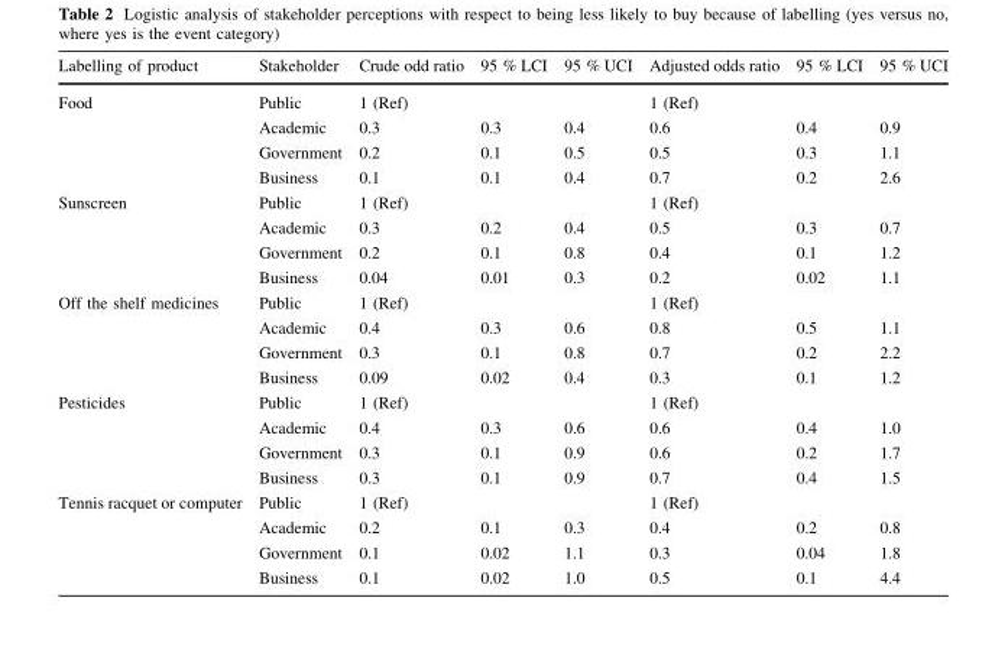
<table><thead><tr><td>Labelling of product</td><td>Stakeholder</td><td>Crude odd ratio</td><td>95 % LCI</td><td>95 % UCI</td><td>Adjusted odds ratio</td><td>95 % LCI</td><td>95 % UCI</td></tr></thead><tbody><tr><td rowspan="4">Food</td><td>Public</td><td>1 (Ref)</td><td></td><td></td><td>1 (Ref)</td><td></td><td></td></tr><tr><td>Academic</td><td>0.3</td><td>0.3</td><td>0.4</td><td>0.6</td><td>0.4</td><td>0.9</td></tr><tr><td>Government</td><td>0.2</td><td>0.1</td><td>0.5</td><td>0.5</td><td>0.3</td><td>1.1</td></tr><tr><td>Business</td><td>0.1</td><td>0.1</td><td>0.4</td><td>0.7</td><td>0.2</td><td>2.6</td></tr><tr><td rowspan="4">Sunscreen</td><td>Public</td><td>1 (Ref)</td><td></td><td></td><td>1 (Ref)</td><td></td><td></td></tr><tr><td>Academic</td><td>0.3</td><td>0.2</td><td>0.4</td><td>0.5</td><td>0.3</td><td>0.7</td></tr><tr><td>Government</td><td>0.2</td><td>0.1</td><td>0.8</td><td>0.4</td><td>0.1</td><td>1.2</td></tr><tr><td>Business</td><td>0.04</td><td>0.01</td><td>0.3</td><td>0.2</td><td>0.02</td><td>1.1</td></tr><tr><td rowspan="4">Off the shelf medicines</td><td>Public</td><td>1 (Ref)</td><td></td><td></td><td>1 (Ref)</td><td></td><td></td></tr><tr><td>Academic</td><td>0.4</td><td>0.3</td><td>0.6</td><td>0.8</td><td>0.5</td><td>1.1</td></tr><tr><td>Government</td><td>0.3</td><td>0.1</td><td>0.8</td><td>0.7</td><td>0.2</td><td>2.2</td></tr><tr><td>Business</td><td>0.09</td><td>0.02</td><td>0.4</td><td>0.3</td><td>0.1</td><td>1.2</td></tr><tr><td rowspan="4">Pesticides</td><td>Public</td><td>1 (Ref)</td><td></td><td></td><td>1 (Ref)</td><td></td><td></td></tr><tr><td>Academic</td><td>0.4</td><td>0.3</td><td>0.6</td><td>0.6</td><td>0.4</td><td>1.0</td></tr><tr><td>Government</td><td>0.3</td><td>0.1</td><td>0.9</td><td>0.6</td><td>0.2</td><td>1.7</td></tr><tr><td>Business</td><td>0.3</td><td>0.1</td><td>0.9</td><td>0.7</td><td>0.4</td><td>1.5</td></tr><tr><td rowspan="4">Tennis racquet or computer</td><td>Public</td><td>1 (Ref)</td><td></td><td></td><td>1 (Ref)</td><td></td><td></td></tr><tr><td>Academic</td><td>0.2</td><td>0.1</td><td>0.3</td><td>0.4</td><td>0.2</td><td>0.8</td></tr><tr><td>Government</td><td>0.1</td><td>0.02</td><td>1.1</td><td>0.3</td><td>0.04</td><td>1.8</td></tr><tr><td>Business</td><td>0.1</td><td>0.02</td><td>1.0</td><td>0.5</td><td>0.1</td><td>4.4</td></tr></tbody></table>